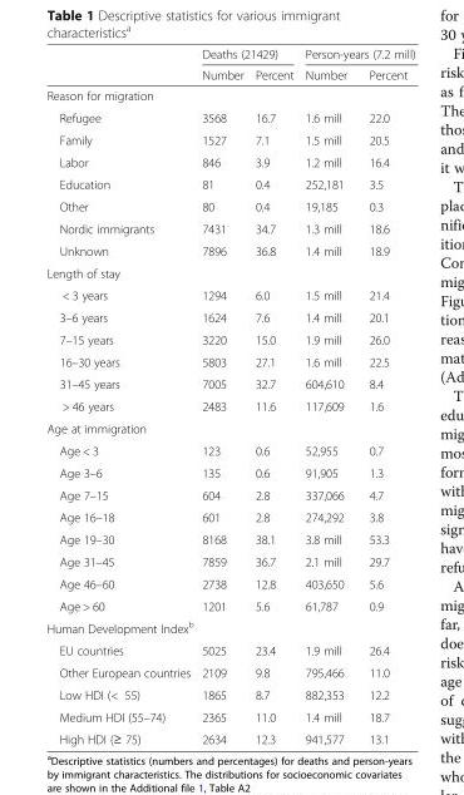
<table><thead><tr><td rowspan="2"></td><td colspan="2">Deaths (21429)</td><td colspan="2">Person-years (7.2 mill)</td></tr><tr><td>Number</td><td>Percent</td><td>Number</td><td>Percent</td></tr></thead><tbody><tr><td colspan="5">Reason for migration</td></tr><tr><td>Refugee</td><td>3568</td><td>16.7</td><td>1.6 mill</td><td>22.0</td></tr><tr><td>Family</td><td>1527</td><td>7.1</td><td>1.5 mill</td><td>20.5</td></tr><tr><td>Labor</td><td>846</td><td>3.9</td><td>1.2 mill</td><td>16.4</td></tr><tr><td>Education</td><td>81</td><td>0.4</td><td>252,181</td><td>3.5</td></tr><tr><td>Other</td><td>80</td><td>0.4</td><td>19,185</td><td>0.3</td></tr><tr><td>Nordic immigrants</td><td>7431</td><td>34.7</td><td>1.3 mill</td><td>18.6</td></tr><tr><td>Unknown</td><td>7896</td><td>36.8</td><td>1.4 mill</td><td>18.9</td></tr><tr><td colspan="5">Length of stay</td></tr><tr><td>&lt; 3 years</td><td>1294</td><td>6.0</td><td>1.5 mill</td><td>21.4</td></tr><tr><td>3–6 years</td><td>1624</td><td>7.6</td><td>1.4 mill</td><td>20.1</td></tr><tr><td>7–15 years</td><td>3220</td><td>15.0</td><td>1.9 mill</td><td>26.0</td></tr><tr><td>16–30 years</td><td>5803</td><td>27.1</td><td>1.6 mill</td><td>22.5</td></tr><tr><td>31–45 years</td><td>7005</td><td>32.7</td><td>604,610</td><td>8.4</td></tr><tr><td>&gt; 46 years</td><td>2483</td><td>11.6</td><td>117,609</td><td>1.6</td></tr><tr><td colspan="5">Age at immigration</td></tr><tr><td>Age &lt; 3</td><td>123</td><td>0.6</td><td>52,955</td><td>0.7</td></tr><tr><td>Age 3–6</td><td>135</td><td>0.6</td><td>91,905</td><td>1.3</td></tr><tr><td>Age 7–15</td><td>604</td><td>2.8</td><td>337,066</td><td>4.7</td></tr><tr><td>Age 16–18</td><td>601</td><td>2.8</td><td>274,292</td><td>3.8</td></tr><tr><td>Age 19–30</td><td>8168</td><td>38.1</td><td>3.8 mill</td><td>53.3</td></tr><tr><td>Age 31–45</td><td>7859</td><td>36.7</td><td>2.1 mill</td><td>29.7</td></tr><tr><td>Age 46–60</td><td>2738</td><td>12.8</td><td>403,650</td><td>5.6</td></tr><tr><td>Age &gt; 60</td><td>1201</td><td>5.6</td><td>61,787</td><td>0.9</td></tr><tr><td colspan="5">Human Development Index<sup>b</sup></td></tr><tr><td>EU countries</td><td>5025</td><td>23.4</td><td>1.9 mill</td><td>26.4</td></tr><tr><td>Other European countries</td><td>2109</td><td>9.8</td><td>795,466</td><td>11.0</td></tr><tr><td>Low HDI (&lt; 55)</td><td>1865</td><td>8.7</td><td>882,353</td><td>12.2</td></tr><tr><td>Medium HDI (55–74)</td><td>2365</td><td>11.0</td><td>1.4 mill</td><td>18.7</td></tr><tr><td>High HDI (≥ 75)</td><td>2634</td><td>12.3</td><td>941,577</td><td>13.1</td></tr></tbody></table>